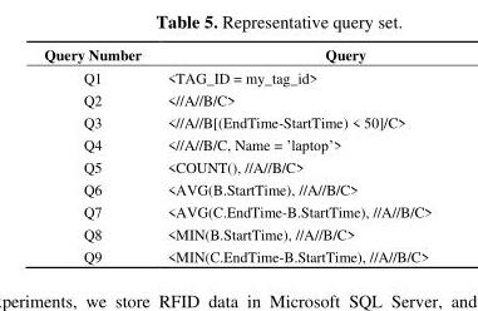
<table><thead><tr><td>Query Number</td><td>Query</td></tr></thead><tbody><tr><td>Q1</td><td>&lt;TAG_ID = my_tag_id&gt;</td></tr><tr><td>Q2</td><td>&lt;//A//B/C&gt;</td></tr><tr><td>Q3</td><td>&lt;//A//B[(EndTime-StartTime) &lt; 50]/C&gt;</td></tr><tr><td>Q4</td><td>&lt;//A//B/C, Name = ’laptop’&gt;</td></tr><tr><td>Q5</td><td>&lt;COUNT(), //A//B/C&gt;</td></tr><tr><td>Q6</td><td>&lt;AVG(B.StartTime), //A//B/C&gt;</td></tr><tr><td>Q7</td><td>&lt;AVG(C.EndTime-B.StartTime), //A//B/C&gt;</td></tr><tr><td>Q8</td><td>&lt;MIN(B.StartTime), //A//B/C&gt;</td></tr><tr><td>Q9</td><td>&lt;MIN(C.EndTime-B.StartTime), //A//B/C&gt;</td></tr></tbody></table>